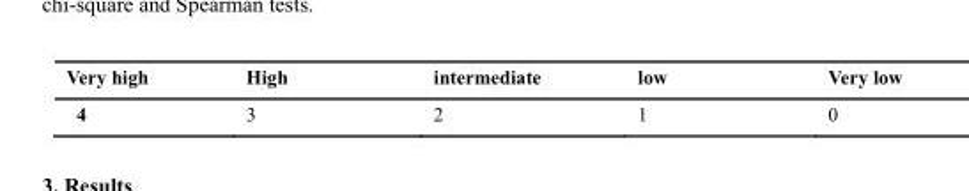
<table><thead><tr><td>Very high</td><td>High</td><td>intermediate</td><td>low</td><td>Very low</td></tr></thead><tbody><tr><td>4</td><td>3</td><td>2</td><td>1</td><td>0</td></tr></tbody></table>